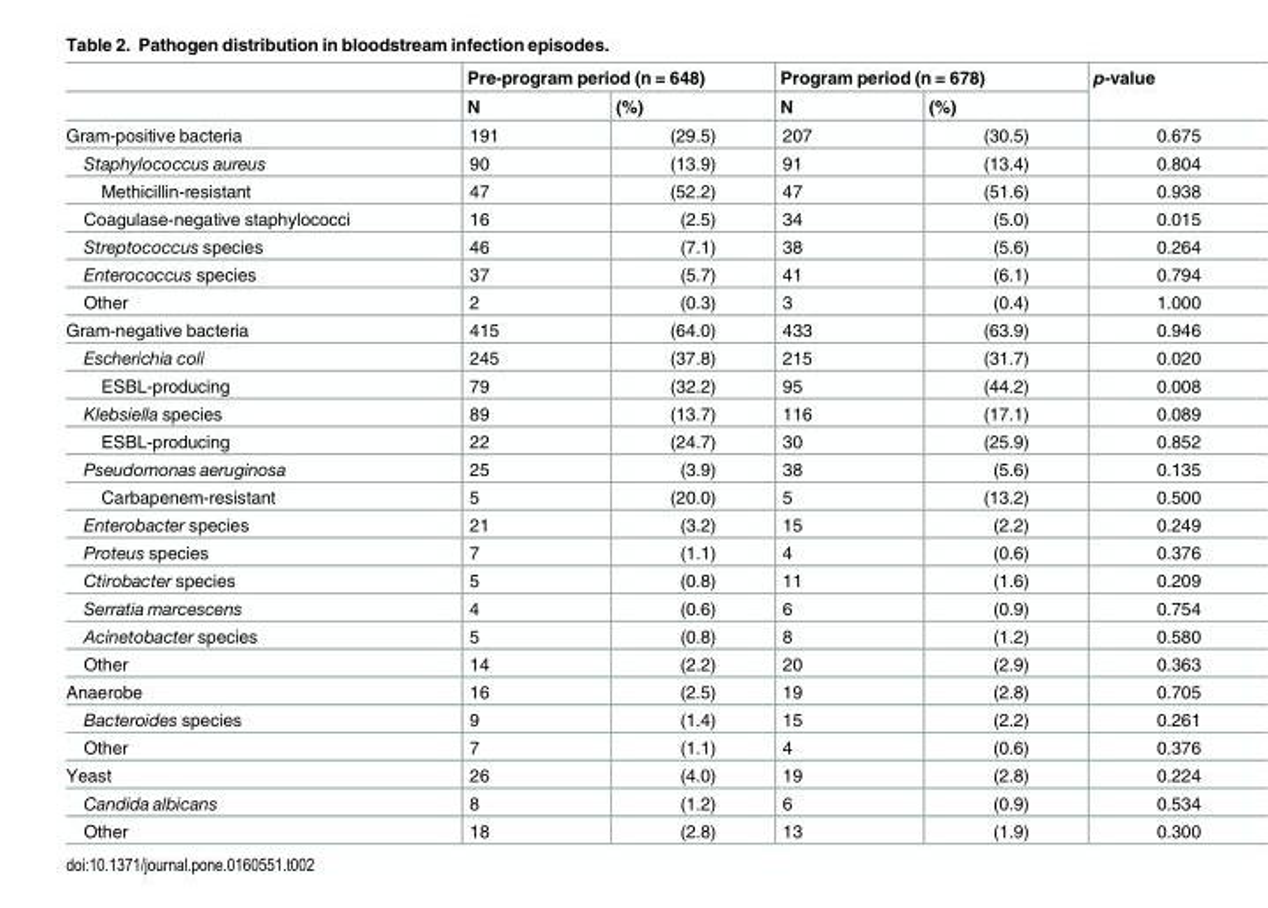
<table><thead><tr><td rowspan="2"></td><td colspan="2">Pre-program period (n = 648)</td><td colspan="2">Program period (n = 678)</td><td rowspan="2">p-value</td></tr><tr><td>N</td><td>(%)</td><td>N</td><td>(%)</td></tr></thead><tbody><tr><td>Gram-positive bacteria</td><td>191</td><td>(29.5)</td><td>207</td><td>(30.5)</td><td>0.675</td></tr><tr><td>Staphylococcus aureus</td><td>90</td><td>(13.9)</td><td>91</td><td>(13.4)</td><td>0.804</td></tr><tr><td>Methicillin-resistant</td><td>47</td><td>(52.2)</td><td>47</td><td>(51.6)</td><td>0.938</td></tr><tr><td>Coagulase-negative staphylococci</td><td>16</td><td>(2.5)</td><td>34</td><td>(5.0)</td><td>0.015</td></tr><tr><td>Streptococcus species</td><td>46</td><td>(7.1)</td><td>38</td><td>(5.6)</td><td>0.264</td></tr><tr><td>Enterococcus species</td><td>37</td><td>(5.7)</td><td>41</td><td>(6.1)</td><td>0.794</td></tr><tr><td>Other</td><td>2</td><td>(0.3)</td><td>3</td><td>(0.4)</td><td>1.000</td></tr><tr><td>Gram-negative bacteria</td><td>415</td><td>(64.0)</td><td>433</td><td>(63.9)</td><td>0.946</td></tr><tr><td>Escherichia coli</td><td>245</td><td>(37.8)</td><td>215</td><td>(31.7)</td><td>0.020</td></tr><tr><td>ESBL-producing</td><td>79</td><td>(32.2)</td><td>95</td><td>(44.2)</td><td>0.008</td></tr><tr><td>Klebsiella species</td><td>89</td><td>(13.7)</td><td>116</td><td>(17.1)</td><td>0.089</td></tr><tr><td>ESBL-producing</td><td>22</td><td>(24.7)</td><td>30</td><td>(25.9)</td><td>0.852</td></tr><tr><td>Pseudomonas aeruginosa</td><td>25</td><td>(3.9)</td><td>38</td><td>(5.6)</td><td>0.135</td></tr><tr><td>Carbapenem-resistant</td><td>5</td><td>(20.0)</td><td>5</td><td>(13.2)</td><td>0.500</td></tr><tr><td>Enterobacter species</td><td>21</td><td>(3.2)</td><td>15</td><td>(2.2)</td><td>0.249</td></tr><tr><td>Proteus species</td><td>7</td><td>(1.1)</td><td>4</td><td>(0.6)</td><td>0.376</td></tr><tr><td>Ctirobacter species</td><td>5</td><td>(0.8)</td><td>11</td><td>(1.6)</td><td>0.209</td></tr><tr><td>Serratia marcescens</td><td>4</td><td>(0.6)</td><td>6</td><td>(0.9)</td><td>0.754</td></tr><tr><td>Acinetobacter species</td><td>5</td><td>(0.8)</td><td>8</td><td>(1.2)</td><td>0.580</td></tr><tr><td>Other</td><td>14</td><td>(2.2)</td><td>20</td><td>(2.9)</td><td>0.363</td></tr><tr><td>Anaerobe</td><td>16</td><td>(2.5)</td><td>19</td><td>(2.8)</td><td>0.705</td></tr><tr><td>Bacteroides species</td><td>9</td><td>(1.4)</td><td>15</td><td>(2.2)</td><td>0.261</td></tr><tr><td>Other</td><td>7</td><td>(1.1)</td><td>4</td><td>(0.6)</td><td>0.376</td></tr><tr><td>Yeast</td><td>26</td><td>(4.0)</td><td>19</td><td>(2.8)</td><td>0.224</td></tr><tr><td>Candida albicans</td><td>8</td><td>(1.2)</td><td>6</td><td>(0.9)</td><td>0.534</td></tr><tr><td>Other</td><td>18</td><td>(2.8)</td><td>13</td><td>(1.9)</td><td>0.300</td></tr></tbody></table>